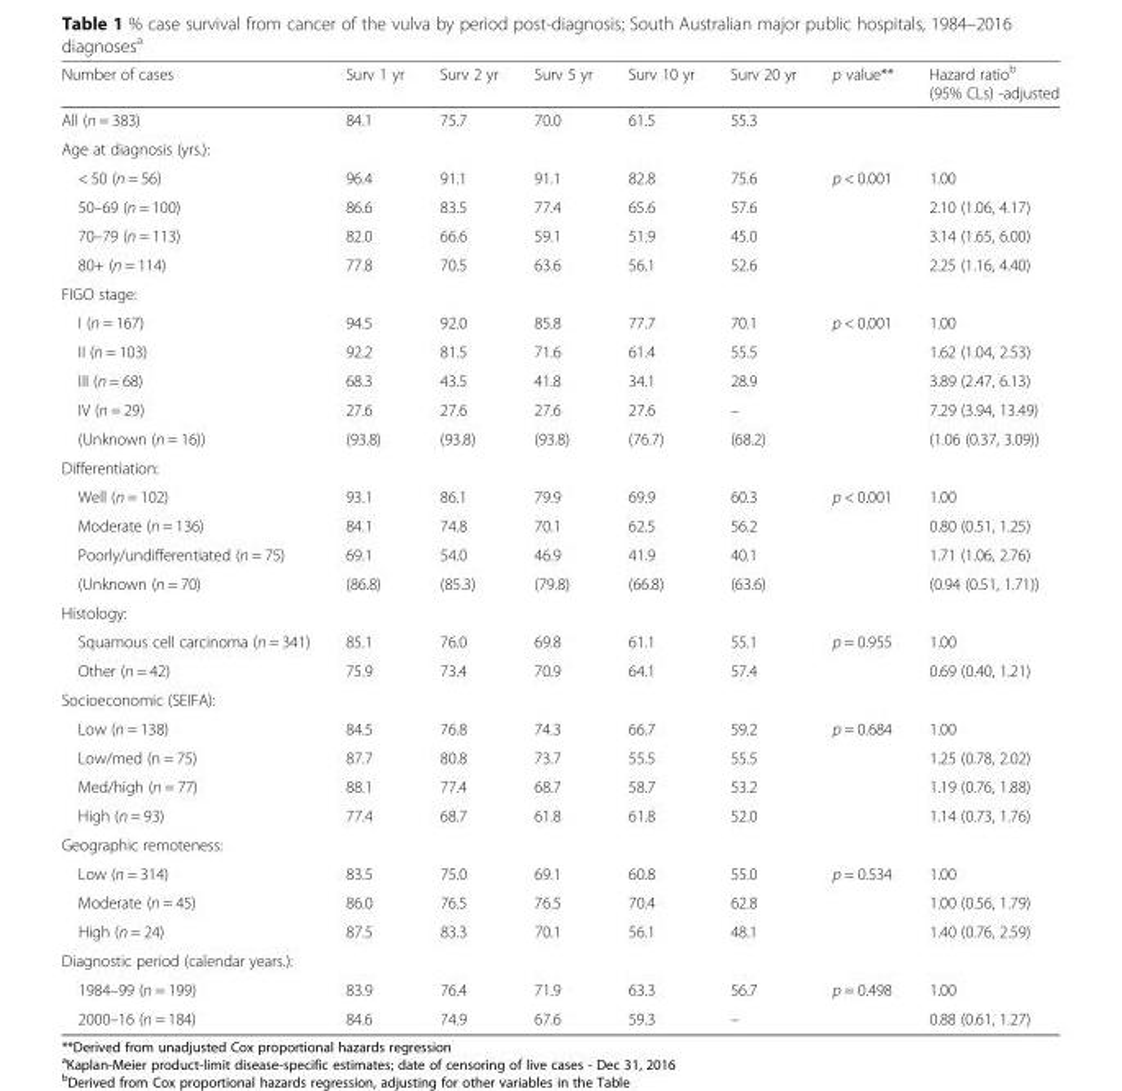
<table><thead><tr><td>Number of cases</td><td>Surv 1 yr</td><td>Surv 2 yr</td><td>Surv 5 yr</td><td>Surv 10 yr</td><td>Surv 20 yr</td><td>p value**</td><td>Hazard ratio<sup>b</sup> (95% CLs) -adjusted</td></tr></thead><tbody><tr><td>All (n = 383)</td><td>84.1</td><td>75.7</td><td>70.0</td><td>61.5</td><td>55.3</td><td></td><td></td></tr><tr><td colspan="8">Age at diagnosis (yrs.):</td></tr><tr><td>&lt; 50 (n = 56)</td><td>96.4</td><td>91.1</td><td>91.1</td><td>82.8</td><td>75.6</td><td rowspan="4">p &lt; 0.001</td><td>1.00</td></tr><tr><td>50–69 (n = 100)</td><td>86.6</td><td>83.5</td><td>77.4</td><td>65.6</td><td>57.6</td><td>2.10 (1.06, 4.17)</td></tr><tr><td>70–79 (n = 113)</td><td>82.0</td><td>66.6</td><td>59.1</td><td>51.9</td><td>45.0</td><td>3.14 (1.65, 6.00)</td></tr><tr><td>80+ (n = 114)</td><td>77.8</td><td>70.5</td><td>63.6</td><td>56.1</td><td>52.6</td><td>2.25 (1.16, 4.40)</td></tr><tr><td colspan="8">FIGO stage:</td></tr><tr><td>I (n = 167)</td><td>94.5</td><td>92.0</td><td>85.8</td><td>77.7</td><td>70.1</td><td rowspan="5">p &lt; 0.001</td><td>1.00</td></tr><tr><td>II (n = 103)</td><td>92.2</td><td>81.5</td><td>71.6</td><td>61.4</td><td>55.5</td><td>1.62 (1.04, 2.53)</td></tr><tr><td>III (n = 68)</td><td>68.3</td><td>43.5</td><td>41.8</td><td>34.1</td><td>28.9</td><td>3.89 (2.47, 6.13)</td></tr><tr><td>IV (n = 29)</td><td>27.6</td><td>27.6</td><td>27.6</td><td>27.6</td><td>–</td><td>7.29 (3.94, 13.49)</td></tr><tr><td>(Unknown (n = 16))</td><td>(93.8)</td><td>(93.8)</td><td>(93.8)</td><td>(76.7)</td><td>(68.2)</td><td>(1.06 (0.37, 3.09))</td></tr><tr><td colspan="8">Differentiation:</td></tr><tr><td>Well (n = 102)</td><td>93.1</td><td>86.1</td><td>79.9</td><td>69.9</td><td>60.3</td><td rowspan="4">p &lt; 0.001</td><td>1.00</td></tr><tr><td>Moderate (n = 136)</td><td>84.1</td><td>74.8</td><td>70.1</td><td>62.5</td><td>56.2</td><td>0.80 (0.51, 1.25)</td></tr><tr><td>Poorly/undifferentiated (n = 75)</td><td>69.1</td><td>54.0</td><td>46.9</td><td>41.9</td><td>40.1</td><td>1.71 (1.06, 2.76)</td></tr><tr><td>(Unknown (n = 70)</td><td>(86.8)</td><td>(85.3)</td><td>(79.8)</td><td>(66.8)</td><td>(63.6)</td><td>(0.94 (0.51, 1.71))</td></tr><tr><td colspan="8">Histology:</td></tr><tr><td>Squamous cell carcinoma (n = 341)</td><td>85.1</td><td>76.0</td><td>69.8</td><td>61.1</td><td>55.1</td><td rowspan="2">p = 0.955</td><td>1.00</td></tr><tr><td>Other (n = 42)</td><td>75.9</td><td>73.4</td><td>70.9</td><td>64.1</td><td>57.4</td><td>0.69 (0.40, 1.21)</td></tr><tr><td colspan="8">Socioeconomic (SEIFA):</td></tr><tr><td>Low (n = 138)</td><td>84.5</td><td>76.8</td><td>74.3</td><td>66.7</td><td>59.2</td><td rowspan="4">p = 0.684</td><td>1.00</td></tr><tr><td>Low/med (n = 75)</td><td>87.7</td><td>80.8</td><td>73.7</td><td>55.5</td><td>55.5</td><td>1.25 (0.78, 2.02)</td></tr><tr><td>Med/high (n = 77)</td><td>88.1</td><td>77.4</td><td>68.7</td><td>58.7</td><td>53.2</td><td>1.19 (0.76, 1.88)</td></tr><tr><td>High (n = 93)</td><td>77.4</td><td>68.7</td><td>61.8</td><td>61.8</td><td>52.0</td><td>1.14 (0.73, 1.76)</td></tr><tr><td colspan="8">Geographic remoteness:</td></tr><tr><td>Low (n = 314)</td><td>83.5</td><td>75.0</td><td>69.1</td><td>60.8</td><td>55.0</td><td rowspan="3">p = 0.534</td><td>1.00</td></tr><tr><td>Moderate (n = 45)</td><td>86.0</td><td>76.5</td><td>76.5</td><td>70.4</td><td>62.8</td><td>1.00 (0.56, 1.79)</td></tr><tr><td>High (n = 24)</td><td>87.5</td><td>83.3</td><td>70.1</td><td>56.1</td><td>48.1</td><td>1.40 (0.76, 2.59)</td></tr><tr><td colspan="8">Diagnostic period (calendar years.):</td></tr><tr><td>1984–99 (n = 199)</td><td>83.9</td><td>76.4</td><td>71.9</td><td>63.3</td><td>56.7</td><td rowspan="2">p = 0.498</td><td>1.00</td></tr><tr><td>2000–16 (n = 184)</td><td>84.6</td><td>74.9</td><td>67.6</td><td>59.3</td><td>–</td><td>0.88 (0.61, 1.27)</td></tr></tbody></table>